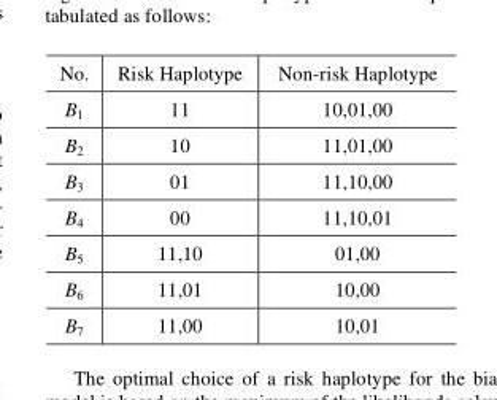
<table><thead><tr><td>No.</td><td>Risk Haplotype</td><td>Non-risk Haplotype</td></tr></thead><tbody><tr><td>B<sub>1</sub></td><td>11</td><td>10,01,00</td></tr><tr><td>B<sub>2</sub></td><td>10</td><td>11,01,00</td></tr><tr><td>B<sub>3</sub></td><td>01</td><td>11,10,00</td></tr><tr><td>B<sub>4</sub></td><td>00</td><td>11,10,01</td></tr><tr><td>B<sub>5</sub></td><td>11,10</td><td>01,00</td></tr><tr><td>B<sub>6</sub></td><td>11,01</td><td>10,00</td></tr><tr><td>B<sub>7</sub></td><td>11,00</td><td>10,01</td></tr></tbody></table>